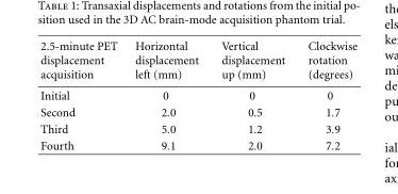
<table><tbody><tr><td>2.5-minute PET displacement acquisition</td><td>Horizontal displacement left (mm)</td><td>Vertical displacement up (mm)</td><td>Clockwise rotation (degrees)</td></tr><tr><td>Initial</td><td>0</td><td>0</td><td>0</td></tr><tr><td>Second</td><td>2.0</td><td>0.5</td><td>1.7</td></tr><tr><td>Third</td><td>5.0</td><td>1.2</td><td>3.9</td></tr><tr><td>Fourth</td><td>9.1</td><td>2.0</td><td>7.2</td></tr></tbody></table>